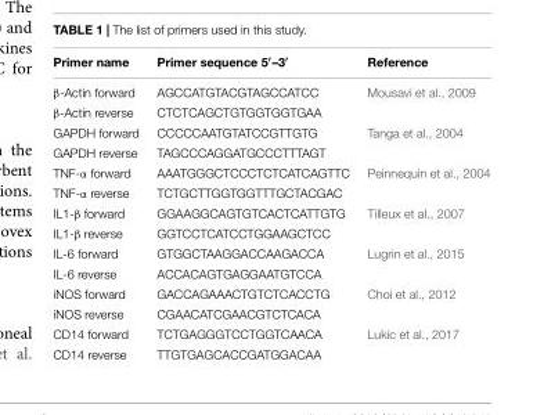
<table><thead><tr><td>Primer name</td><td>Primer sequence 5′–3′</td><td>Reference</td></tr></thead><tbody><tr><td>β-Actin forward</td><td>AGCCATGTACGTAGCCATCC</td><td>Mousavi et al., 2009</td></tr><tr><td>β-Actin reverse</td><td>CTCTCAGCTGTGGTGGTGAA</td><td></td></tr><tr><td>GAPDH forward</td><td>CCCCCAATGTATCCGTTGTG</td><td>Tanga et al., 2004</td></tr><tr><td>GAPDH reverse</td><td>TAGCCCAGGATGCCCTTTAGT</td><td></td></tr><tr><td>TNF-α forward</td><td>AAATGGGCTCCCTCTCATCAGTTC</td><td>Peinnequin et al., 2004</td></tr><tr><td>TNF-α reverse</td><td>TCTGCTTGGTGGTTTGCTACGAC</td><td></td></tr><tr><td>IL1-β forward</td><td>GGAAGGCAGTGTCACTCATTGTG</td><td>Tilleux et al., 2007</td></tr><tr><td>IL1-β reverse</td><td>GGTCCTCATCCTGGAAGCTCC</td><td></td></tr><tr><td>IL-6 forward</td><td>GTGGCTAAGGACCAAGACCA</td><td>Lugrin et al., 2015</td></tr><tr><td>IL-6 reverse</td><td>ACCACAGTGAGGAATGTCCA</td><td></td></tr><tr><td>iNOS forward</td><td>GACCAGAAACTGTCTCACCTG</td><td>Choi et al., 2012</td></tr><tr><td>iNOS reverse</td><td>CGAACATCGAACGTCTCACA</td><td></td></tr><tr><td>CD14 forward</td><td>TCTGAGGGTCCTGGTCAACA</td><td>Lukic et al., 2017</td></tr><tr><td>CD14 reverse</td><td>TTGTGAGCACCGATGGACAA</td><td></td></tr></tbody></table>